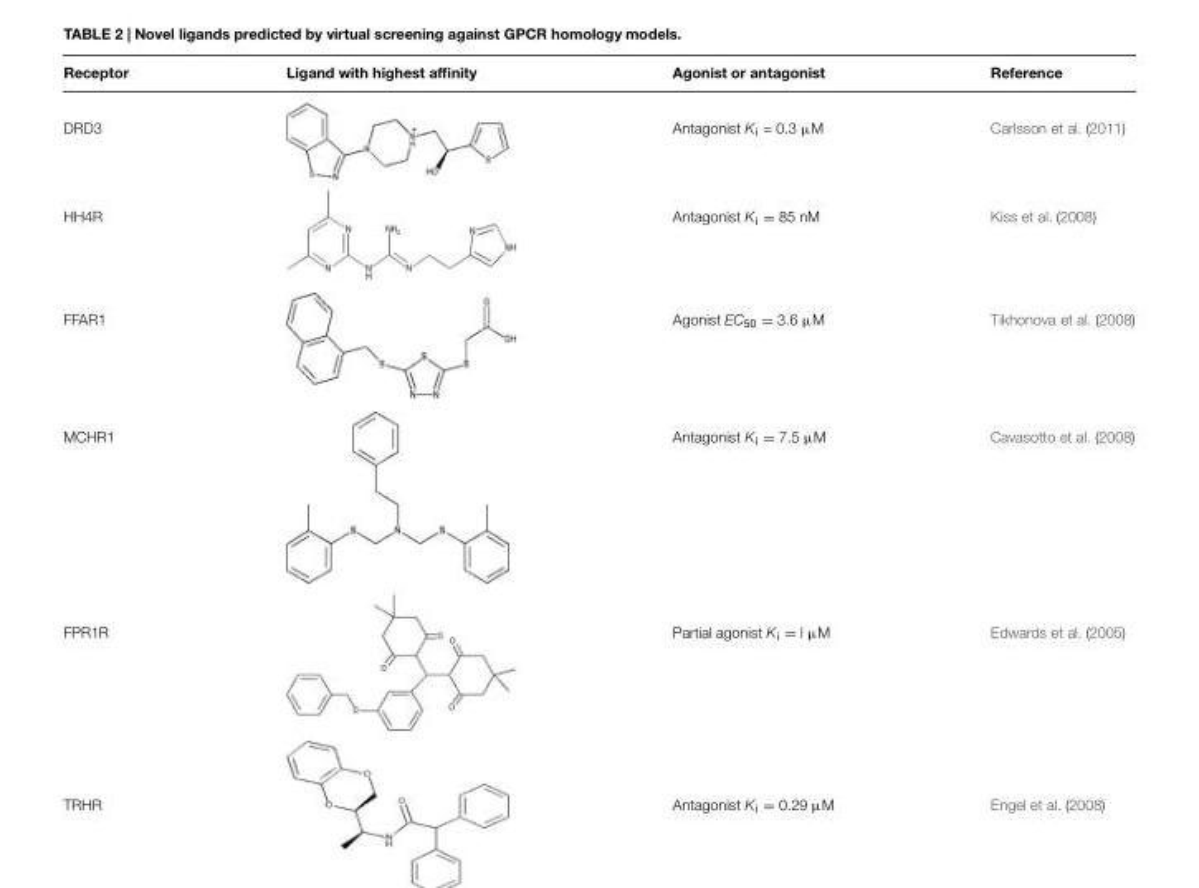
<table><thead><tr><td>Receptor</td><td>Ligand with highest affinity</td><td>Agonist or antagonist</td><td>Reference</td></tr></thead><tbody><tr><td>DRD3</td><td></td><td>Antagonist Ki = 0.3 μM</td><td>Carlsson et al. (2011)</td></tr><tr><td>HH4R</td><td></td><td>Antagonist Ki = 85 nM</td><td>Kiss et al. (2008)</td></tr><tr><td>FFAR1</td><td></td><td>Agonist EC50 = 3.6 μM</td><td>Tikhonova et al. (2008)</td></tr><tr><td>MCHR1</td><td></td><td>Antagonist Ki = 7.5 μM</td><td>Cavasotto et al. (2008)</td></tr><tr><td>FPR1R</td><td></td><td>Partial agonist Ki = l μM</td><td>Edwards et al. (2005)</td></tr><tr><td>TRHR</td><td></td><td>Antagonist Ki = 0.29 μM</td><td>Engel et al. (2008)</td></tr></tbody></table>